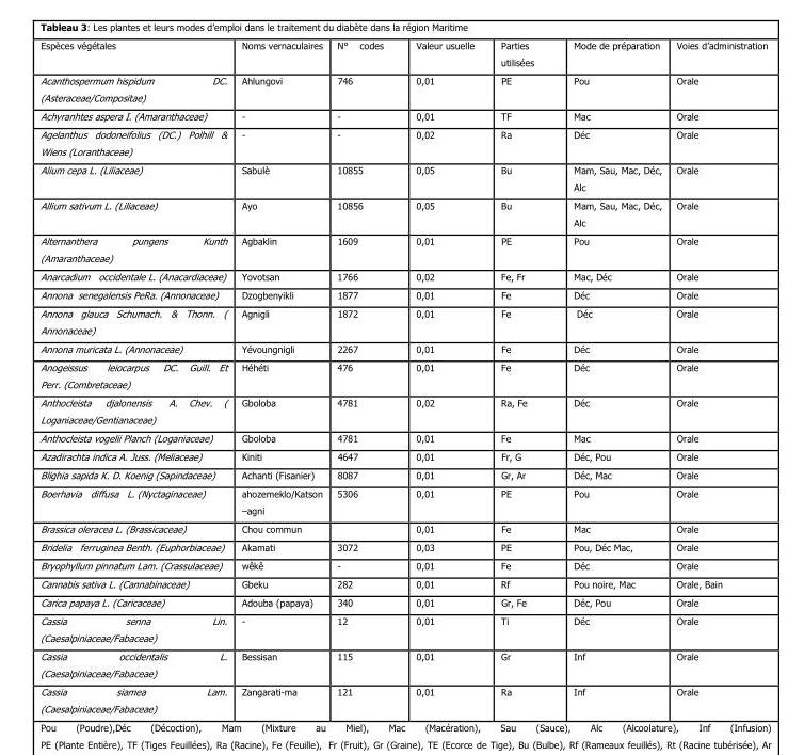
<table><thead><tr><td>Espèces végétales</td><td>Noms vernaculaires</td><td>N° codes</td><td>Valeur usuelle</td><td>Parties utilisées</td><td>Mode de préparation</td><td>Voies d’administration</td></tr></thead><tbody><tr><td>Acanthospermum hispidum DC. (Asteraceae/Compositae)</td><td>Ahlungovi</td><td>746</td><td>0,01</td><td>PE</td><td>Pou</td><td>Orale</td></tr><tr><td>Achyranhtes aspera I. (Amaranthaceae)</td><td>-</td><td>-</td><td>0,01</td><td>TF</td><td>Mac</td><td>Orale</td></tr><tr><td>Agelanthus dodoneifolius (DC.) Polhill &amp; Wiens (Loranthaceae)</td><td>-</td><td>-</td><td>0,02</td><td>Ra</td><td>Déc</td><td>Orale</td></tr><tr><td>Alium cepa L. (Liliaceae)</td><td>Sabulè</td><td>10855</td><td>0,05</td><td>Bu</td><td>Mam, Sau, Mac, Déc, Alc</td><td>Orale</td></tr><tr><td>Allium sativum L. (Liliaceae)</td><td>Ayo</td><td>10856</td><td>0,05</td><td>Bu</td><td>Mam, Sau, Mac, Déc, Alc</td><td>Orale</td></tr><tr><td>Alternanthera pungens Kunth (Amaranthaceae)</td><td>Agbaklin</td><td>1609</td><td>0,01</td><td>PE</td><td>Pou</td><td>Orale</td></tr><tr><td>Anarcadium occidentale L. (Anacardiaceae)</td><td>Yovotsan</td><td>1766</td><td>0,02</td><td>Fe, Fr</td><td>Mac, Déc</td><td>Orale</td></tr><tr><td>Annona senegalensis PeRa. (Annonaceae)</td><td>Dzogbenyikli</td><td>1877</td><td>0,01</td><td>Fe</td><td>Déc</td><td>Orale</td></tr><tr><td>Annona glauca Schumach. &amp; Thonn. ( Annonaceae)</td><td>Agnigli</td><td>1872</td><td>0,01</td><td>Fe</td><td>Déc</td><td>Orale</td></tr><tr><td>Annona muricata L. (Annonaceae)</td><td>Yévoungnigli</td><td>2267</td><td>0,01</td><td>Fe</td><td>Déc</td><td>Orale</td></tr><tr><td>Anogeissus leiocarpus DC. Guill. Et Perr. (Combretaceae)</td><td>Héhéti</td><td>476</td><td>0,01</td><td>Fe</td><td>Déc</td><td>Orale</td></tr><tr><td>Anthocleista djalonensis A. Chev. ( Loganiaceae/Gentianaceae)</td><td>Gboloba</td><td>4781</td><td>0,02</td><td>Ra, Fe</td><td>Déc</td><td>Orale</td></tr><tr><td>Anthocleista vogelii Planch (Loganiaceae)</td><td>Gboloba</td><td>4781</td><td>0,01</td><td>Fe</td><td>Mac</td><td>Orale</td></tr><tr><td>Azadirachta indica A. Juss. (Meliaceae)</td><td>Kiniti</td><td>4647</td><td>0,01</td><td>Fr, G</td><td>Déc, Pou</td><td>Orale</td></tr><tr><td>Blighia sapida K. D. Koenig (Sapindaceae)</td><td>Achanti (Fisanier)</td><td>8087</td><td>0,01</td><td>Gr, Ar</td><td>Déc, Mac</td><td>Orale</td></tr><tr><td>Boerhavia diffusa L. (Nyctaginaceae)</td><td>ahozemeklo/Katson –agni</td><td>5306</td><td>0,01</td><td>PE</td><td>Pou</td><td>Orale</td></tr><tr><td>Brassica oleracea L. (Brassicaceae)</td><td>Chou commun</td><td></td><td>0,01</td><td>Fe</td><td>Mac</td><td>Orale</td></tr><tr><td>Bridelia ferruginea Benth. (Euphorbiaceae)</td><td>Akamati</td><td>3072</td><td>0,03</td><td>PE</td><td>Pou, Déc Mac,</td><td>Orale</td></tr><tr><td>Bryophyllum pinnatum Lam. (Crassulaceae)</td><td>wêkê</td><td>-</td><td>0,01</td><td>Fe</td><td>Déc</td><td>Orale</td></tr><tr><td>Cannabis sativa L. (Cannabinaceae)</td><td>Gbeku</td><td>282</td><td>0,01</td><td>Rf</td><td>Pou noire, Mac</td><td>Orale, Bain</td></tr><tr><td>Carica papaya L. (Caricaceae)</td><td>Adouba (papaya)</td><td>340</td><td>0,01</td><td>Gr, Fe</td><td>Déc, Pou</td><td>Orale</td></tr><tr><td>Cassia senna Lin. (Caesalpiniaceae/Fabaceae)</td><td>-</td><td>12</td><td>0,01</td><td>Ti</td><td>Déc</td><td>Orale</td></tr><tr><td>Cassia occidentalis L. (Caesalpiniaceae/Fabaceae)</td><td>Bessisan</td><td>115</td><td>0,01</td><td>Gr</td><td>Inf</td><td>Orale</td></tr><tr><td>Cassia siamea Lam. (Caesalpiniaceae/Fabaceae)</td><td>Zangarati-ma</td><td>121</td><td>0,01</td><td>Ra</td><td>Inf</td><td>Orale</td></tr></tbody></table>